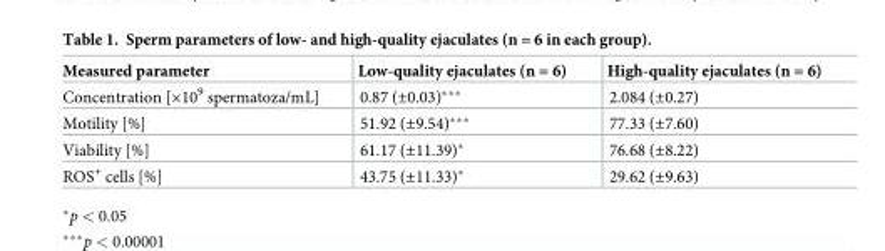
<table><thead><tr><td>Measured parameter</td><td>Low-quality ejaculates (n = 6)</td><td>High-quality ejaculates (n = 6)</td></tr></thead><tbody><tr><td>Concentration [×10<sup>9</sup> spermatoza/mL]</td><td>0.87 (±0.03)***</td><td>2.084 (±0.27)</td></tr><tr><td>Motility [%]</td><td>51.92 (±9.54)***</td><td>77.33 (±7.60)</td></tr><tr><td>Viability [%]</td><td>61.17 (±11.39)*</td><td>76.68 (±8.22)</td></tr><tr><td>ROS<sup>+</sup> cells [%]</td><td>43.75 (±11.33)*</td><td>29.62 (±9.63)</td></tr></tbody></table>